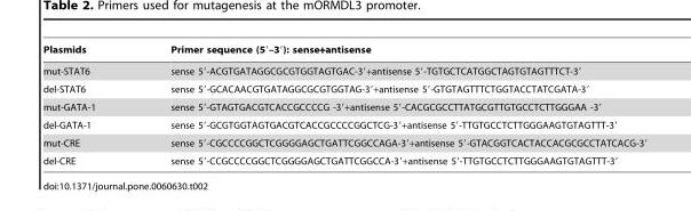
<table><thead><tr><td>Plasmids</td><td>Primer sequence (5′–3′): sense+antisense</td></tr></thead><tbody><tr><td>mut-STAT6</td><td>sense 5′-ACGTGATAGGCGCGTGGTAGTGAC-3′+antisense 5′-TGTGCTCATGGCTAGTGTAGTTTCT-3′</td></tr><tr><td>del-STAT6</td><td>sense 5′-GCACAACGTGATAGGCGCGTGGTAG-3′+antisense 5′-GTGTAGTTTCTGGTACCTATCGATA-3′</td></tr><tr><td>mut-GATA-1</td><td>sense 5′-GTAGTGACGTCACCGCCCCG -3′+antisense 5′-CACGCGCCTTATGCGTTGTGCCTCTTGGGAA -3′</td></tr><tr><td>del-GATA-1</td><td>sense 5′-GCGTGGTAGTGACGTCACCGCCCCGGCTCG-3′+antisense 5′-TTGTGCCTCTTGGGAAGTGTAGTTT-3′</td></tr><tr><td>mut-CRE</td><td>sense 5′-CGCCCCGGCTCGGGGAGCTGATTCGGCCAGA-3′+antisense 5′-GTACGGTCACTACCACGCGCCTATCACG-3′</td></tr><tr><td>del-CRE</td><td>sense 5′-CCGCCCCGGCTCGGGGAGCTGATTCGGCCA-3′+antisense 5′-TTGTGCCTCTTGGGAAGTGTAGTTT-3′</td></tr></tbody></table>